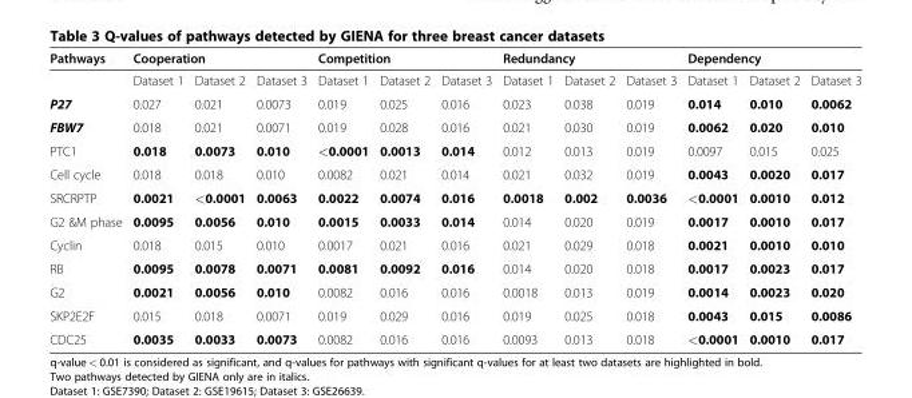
<table><thead><tr><td rowspan="2">Pathways</td><td colspan="3">Cooperation</td><td colspan="3">Competition</td><td colspan="3">Redundancy</td><td colspan="3">Dependency</td></tr><tr><td>Dataset 1</td><td>Dataset 2</td><td>Dataset 3</td><td>Dataset 1</td><td>Dataset 2</td><td>Dataset 3</td><td>Dataset 1</td><td>Dataset 2</td><td>Dataset 3</td><td>Dataset 1</td><td>Dataset 2</td><td>Dataset 3</td></tr></thead><tbody><tr><td>P27</td><td>0.027</td><td>0.021</td><td>0.0073</td><td>0.019</td><td>0.025</td><td>0.016</td><td>0.023</td><td>0.038</td><td>0.019</td><td>0.014</td><td>0.010</td><td>0.0062</td></tr><tr><td>FBW7</td><td>0.018</td><td>0.021</td><td>0.0071</td><td>0.019</td><td>0.028</td><td>0.016</td><td>0.021</td><td>0.030</td><td>0.019</td><td>0.0062</td><td>0.020</td><td>0.010</td></tr><tr><td>PTC1</td><td>0.018</td><td>0.0073</td><td>0.010</td><td>&lt;0.0001</td><td>0.0013</td><td>0.014</td><td>0.012</td><td>0.013</td><td>0.019</td><td>0.0097</td><td>0.015</td><td>0.025</td></tr><tr><td>Cell cycle</td><td>0.018</td><td>0.018</td><td>0.010</td><td>0.0082</td><td>0.021</td><td>0.014</td><td>0.021</td><td>0.032</td><td>0.019</td><td>0.0043</td><td>0.0020</td><td>0.017</td></tr><tr><td>SRCRPTP</td><td>0.0021</td><td>&lt;0.0001</td><td>0.0063</td><td>0.0022</td><td>0.0074</td><td>0.016</td><td>0.0018</td><td>0.002</td><td>0.0036</td><td>&lt;0.0001</td><td>0.0010</td><td>0.012</td></tr><tr><td>G2 &amp;M phase</td><td>0.0095</td><td>0.0056</td><td>0.010</td><td>0.0015</td><td>0.0033</td><td>0.014</td><td>0.014</td><td>0.020</td><td>0.019</td><td>0.0017</td><td>0.0010</td><td>0.017</td></tr><tr><td>Cyclin</td><td>0.018</td><td>0.015</td><td>0.010</td><td>0.0017</td><td>0.021</td><td>0.016</td><td>0.021</td><td>0.029</td><td>0.018</td><td>0.0021</td><td>0.0010</td><td>0.010</td></tr><tr><td>RB</td><td>0.0095</td><td>0.0078</td><td>0.0071</td><td>0.0081</td><td>0.0092</td><td>0.016</td><td>0.014</td><td>0.020</td><td>0.018</td><td>0.0017</td><td>0.0023</td><td>0.017</td></tr><tr><td>G2</td><td>0.0021</td><td>0.0056</td><td>0.010</td><td>0.0082</td><td>0.016</td><td>0.016</td><td>0.0018</td><td>0.013</td><td>0.019</td><td>0.0014</td><td>0.0023</td><td>0.020</td></tr><tr><td>SKP2E2F</td><td>0.015</td><td>0.018</td><td>0.0071</td><td>0.019</td><td>0.029</td><td>0.016</td><td>0.019</td><td>0.025</td><td>0.018</td><td>0.0043</td><td>0.015</td><td>0.0086</td></tr><tr><td>CDC25</td><td>0.0035</td><td>0.0033</td><td>0.0073</td><td>0.0082</td><td>0.016</td><td>0.016</td><td>0.0093</td><td>0.013</td><td>0.018</td><td>&lt;0.0001</td><td>0.0010</td><td>0.017</td></tr></tbody></table>